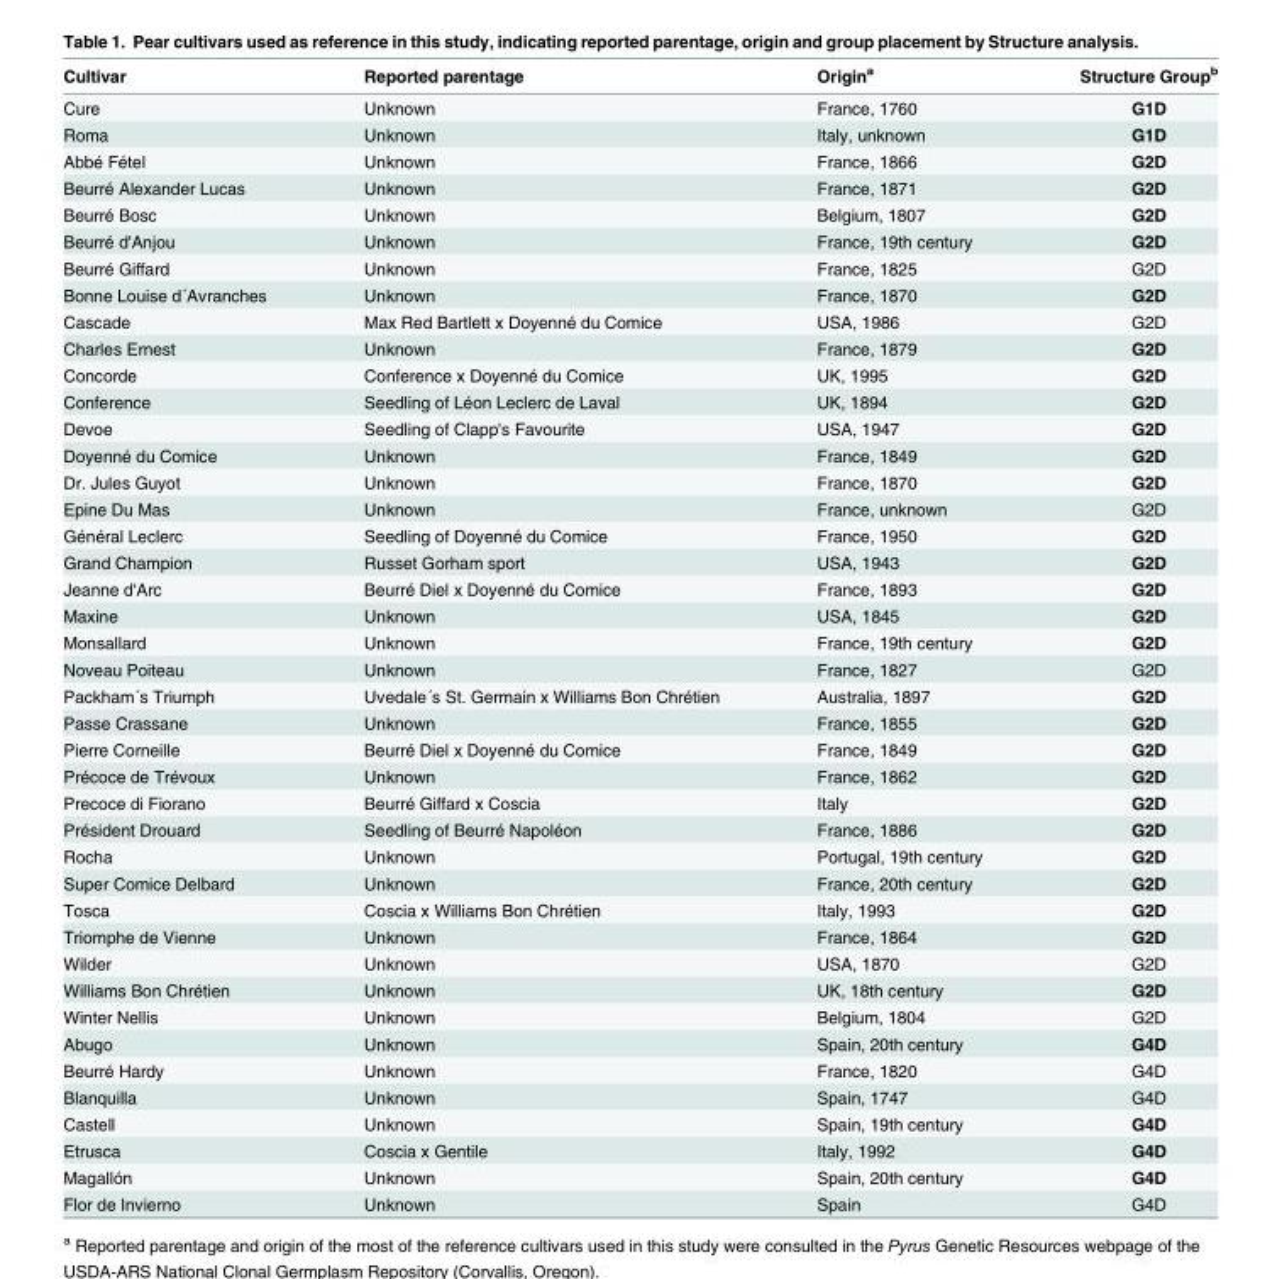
<table><thead><tr><td>Cultivar</td><td>Reported parentage</td><td>Origin<sup>a</sup></td><td>Structure Group<sup>b</sup></td></tr></thead><tbody><tr><td>Cure</td><td>Unknown</td><td>France, 1760</td><td>G1D</td></tr><tr><td>Roma</td><td>Unknown</td><td>Italy, unknown</td><td>G1D</td></tr><tr><td>Abbé Fétel</td><td>Unknown</td><td>France, 1866</td><td>G2D</td></tr><tr><td>Beurré Alexander Lucas</td><td>Unknown</td><td>France, 1871</td><td>G2D</td></tr><tr><td>Beurré Bosc</td><td>Unknown</td><td>Belgium, 1807</td><td>G2D</td></tr><tr><td>Beurré d&#x27;Anjou</td><td>Unknown</td><td>France, 19th century</td><td>G2D</td></tr><tr><td>Beurré Giffard</td><td>Unknown</td><td>France, 1825</td><td>G2D</td></tr><tr><td>Bonne Louise d´Avranches</td><td>Unknown</td><td>France, 1870</td><td>G2D</td></tr><tr><td>Cascade</td><td>Max Red Bartlett x Doyenné du Comice</td><td>USA, 1986</td><td>G2D</td></tr><tr><td>Charles Ernest</td><td>Unknown</td><td>France, 1879</td><td>G2D</td></tr><tr><td>Concorde</td><td>Conference x Doyenné du Comice</td><td>UK, 1995</td><td>G2D</td></tr><tr><td>Conference</td><td>Seedling of Léon Leclerc de Laval</td><td>UK, 1894</td><td>G2D</td></tr><tr><td>Devoe</td><td>Seedling of Clapp&#x27;s Favourite</td><td>USA, 1947</td><td>G2D</td></tr><tr><td>Doyenné du Comice</td><td>Unknown</td><td>France, 1849</td><td>G2D</td></tr><tr><td>Dr. Jules Guyot</td><td>Unknown</td><td>France, 1870</td><td>G2D</td></tr><tr><td>Epine Du Mas</td><td>Unknown</td><td>France, unknown</td><td>G2D</td></tr><tr><td>Général Leclerc</td><td>Seedling of Doyenné du Comice</td><td>France, 1950</td><td>G2D</td></tr><tr><td>Grand Champion</td><td>Russet Gorham sport</td><td>USA, 1943</td><td>G2D</td></tr><tr><td>Jeanne d&#x27;Arc</td><td>Beurré Diel x Doyenné du Comice</td><td>France, 1893</td><td>G2D</td></tr><tr><td>Maxine</td><td>Unknown</td><td>USA, 1845</td><td>G2D</td></tr><tr><td>Monsallard</td><td>Unknown</td><td>France, 19th century</td><td>G2D</td></tr><tr><td>Noveau Poiteau</td><td>Unknown</td><td>France, 1827</td><td>G2D</td></tr><tr><td>Packham´s Triumph</td><td>Uvedale´s St. Germain x Williams Bon Chrétien</td><td>Australia, 1897</td><td>G2D</td></tr><tr><td>Passe Crassane</td><td>Unknown</td><td>France, 1855</td><td>G2D</td></tr><tr><td>Pierre Corneille</td><td>Beurré Diel x Doyenné du Comice</td><td>France, 1849</td><td>G2D</td></tr><tr><td>Précoce de Trévoux</td><td>Unknown</td><td>France, 1862</td><td>G2D</td></tr><tr><td>Precoce di Fiorano</td><td>Beurré Giffard x Coscia</td><td>Italy</td><td>G2D</td></tr><tr><td>Président Drouard</td><td>Seedling of Beurré Napoléon</td><td>France, 1886</td><td>G2D</td></tr><tr><td>Rocha</td><td>Unknown</td><td>Portugal, 19th century</td><td>G2D</td></tr><tr><td>Super Comice Delbard</td><td>Unknown</td><td>France, 20th century</td><td>G2D</td></tr><tr><td>Tosca</td><td>Coscia x Williams Bon Chrétien</td><td>Italy, 1993</td><td>G2D</td></tr><tr><td>Triomphe de Vienne</td><td>Unknown</td><td>France, 1864</td><td>G2D</td></tr><tr><td>Wilder</td><td>Unknown</td><td>USA, 1870</td><td>G2D</td></tr><tr><td>Williams Bon Chrétien</td><td>Unknown</td><td>UK, 18th century</td><td>G2D</td></tr><tr><td>Winter Nellis</td><td>Unknown</td><td>Belgium, 1804</td><td>G2D</td></tr><tr><td>Abugo</td><td>Unknown</td><td>Spain, 20th century</td><td>G4D</td></tr><tr><td>Beurré Hardy</td><td>Unknown</td><td>France, 1820</td><td>G4D</td></tr><tr><td>Blanquilla</td><td>Unknown</td><td>Spain, 1747</td><td>G4D</td></tr><tr><td>Castell</td><td>Unknown</td><td>Spain, 19th century</td><td>G4D</td></tr><tr><td>Etrusca</td><td>Coscia x Gentile</td><td>Italy, 1992</td><td>G4D</td></tr><tr><td>Magallón</td><td>Unknown</td><td>Spain, 20th century</td><td>G4D</td></tr><tr><td>Flor de Invierno</td><td>Unknown</td><td>Spain</td><td>G4D</td></tr></tbody></table>